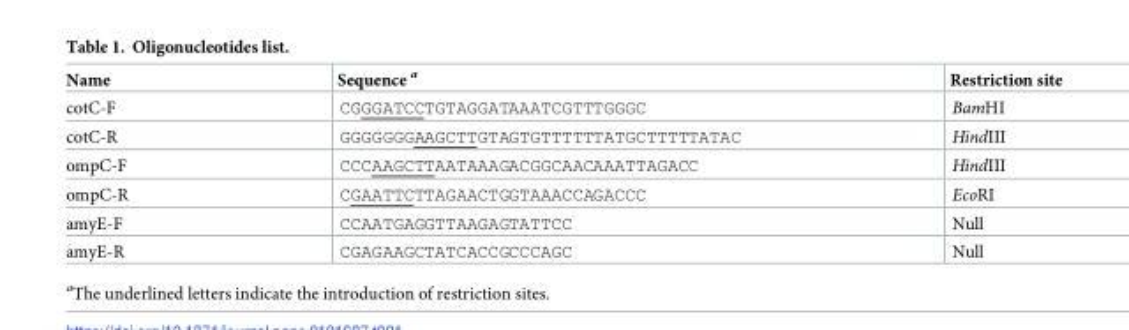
<table><thead><tr><td>Name</td><td>Sequence <sup>a</sup></td><td>Restriction site</td></tr></thead><tbody><tr><td>cotC-F</td><td>CGGGATCCTGTAGGATAAATCGTTTGGGC</td><td>BamHI</td></tr><tr><td>cotC-R</td><td>GGGGGGGAAGCTTGTAGTGTTTTTTATGCTTTTTATAC</td><td>HindIII</td></tr><tr><td>ompC-F</td><td>CCCAAGCTTAATAAAGACGGCAACAAATTAGACC</td><td>HindIII</td></tr><tr><td>ompC-R</td><td>CGAATTCTTAGAACTGGTAAACCAGACCC</td><td>EcoRI</td></tr><tr><td>amyE-F</td><td>CCAATGAGGTTAAGAGTATTCC</td><td>Null</td></tr><tr><td>amyE-R</td><td>CGAGAAGCTATCACCGCCCAGC</td><td>Null</td></tr></tbody></table>